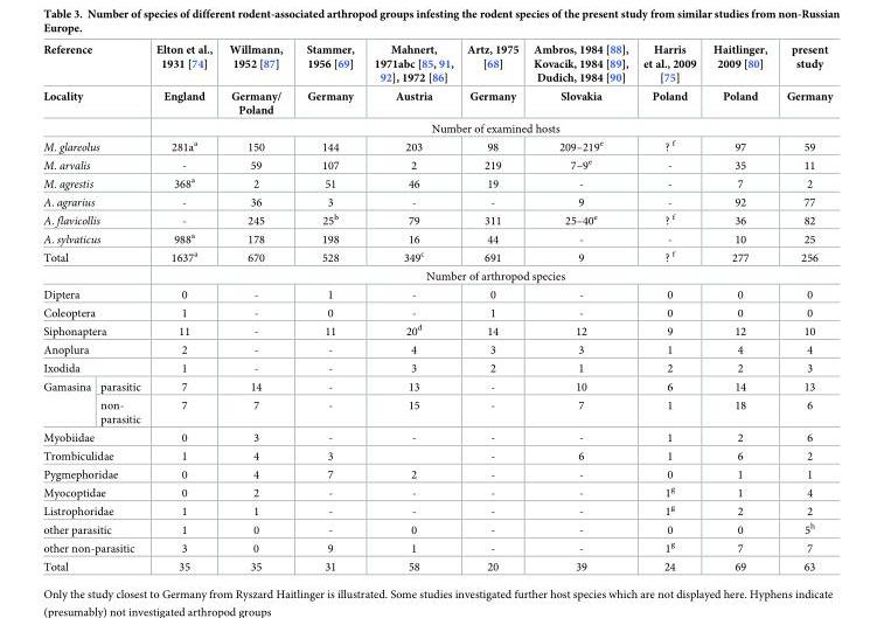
<table><thead><tr><td rowspan="2" colspan="2">Reference Locality</td><td rowspan="2">Elton et al., 1931 [74] England</td><td rowspan="2">Willmann, 1952 [87] Germany/ Poland</td><td rowspan="2">Stammer, 1956 [69] Germany</td><td rowspan="2">Mahnert, 1971abc [85, 91, 92], 1972 [86] Austria</td><td rowspan="2">Artz, 1975 [68] Germany</td><td rowspan="2">Ambros, 1984 [88], Kovacik, 1984 [89], Dudich, 1984 [90] Slovakia</td><td rowspan="2">Harris et al., 2009 [75] Poland</td><td rowspan="2">Haitlinger, 2009 [80] Poland</td><td rowspan="2">present study Germany</td></tr><tr></tr></thead><tbody><tr><td colspan="2"></td><td colspan="9">Number of examined hosts</td></tr><tr><td colspan="2">M. glareolus</td><td>281a<sup>a</sup></td><td>150</td><td>144</td><td>203</td><td>98</td><td>209–219<sup>e</sup></td><td>? <sup>f</sup></td><td>97</td><td>59</td></tr><tr><td colspan="2">M. arvalis</td><td>-</td><td>59</td><td>107</td><td>2</td><td>219</td><td>7–9<sup>e</sup></td><td>-</td><td>35</td><td>11</td></tr><tr><td colspan="2">M. agrestis</td><td>368<sup>a</sup></td><td>2</td><td>51</td><td>46</td><td>19</td><td>-</td><td>-</td><td>7</td><td>2</td></tr><tr><td colspan="2">A. agrarius</td><td>-</td><td>36</td><td>3</td><td>-</td><td>-</td><td>9</td><td>-</td><td>92</td><td>77</td></tr><tr><td colspan="2">A. flavicollis</td><td>-</td><td>245</td><td>25<sup>b</sup></td><td>79</td><td>311</td><td>25–40<sup>e</sup></td><td>? <sup>f</sup></td><td>36</td><td>82</td></tr><tr><td colspan="2">A. sylvaticus</td><td>988<sup>a</sup></td><td>178</td><td>198</td><td>16</td><td>44</td><td>-</td><td>-</td><td>10</td><td>25</td></tr><tr><td rowspan="2" colspan="2">Total</td><td>1637<sup>a</sup></td><td>670</td><td>528</td><td>349<sup>c</sup></td><td>691</td><td>9</td><td>? <sup>f</sup></td><td>277</td><td>256</td></tr><tr><td colspan="9">Number of arthropod species</td></tr><tr><td colspan="2">Diptera</td><td>0</td><td>-</td><td>1</td><td>-</td><td>0</td><td>-</td><td>0</td><td>0</td><td>0</td></tr><tr><td colspan="2">Coleoptera</td><td>1</td><td>-</td><td>0</td><td>-</td><td>1</td><td>-</td><td>0</td><td>0</td><td>0</td></tr><tr><td colspan="2">Siphonaptera</td><td>11</td><td>-</td><td>11</td><td>20<sup>d</sup></td><td>14</td><td>12</td><td>9</td><td>12</td><td>10</td></tr><tr><td colspan="2">Anoplura</td><td>2</td><td>-</td><td>-</td><td>4</td><td>3</td><td>3</td><td>1</td><td>4</td><td>4</td></tr><tr><td colspan="2">Ixodida</td><td>1</td><td>-</td><td>-</td><td>3</td><td>2</td><td>1</td><td>2</td><td>2</td><td>3</td></tr><tr><td rowspan="2">Gamasina</td><td>parasitic</td><td>7</td><td>14</td><td>-</td><td>13</td><td>-</td><td>10</td><td>6</td><td>14</td><td>13</td></tr><tr><td>non- parasitic</td><td>7</td><td>7</td><td>-</td><td>15</td><td>-</td><td>7</td><td>1</td><td>18</td><td>6</td></tr><tr><td colspan="2">Myobiidae</td><td>0</td><td>3</td><td>-</td><td>-</td><td>-</td><td>-</td><td>1</td><td>2</td><td>6</td></tr><tr><td colspan="2">Trombiculidae</td><td>1</td><td>4</td><td>3</td><td></td><td>-</td><td>6</td><td>1</td><td>6</td><td>2</td></tr><tr><td colspan="2">Pygmephoridae</td><td>0</td><td>4</td><td>7</td><td>2</td><td>-</td><td>-</td><td>0</td><td>1</td><td>1</td></tr><tr><td colspan="2">Myocoptidae</td><td>0</td><td>2</td><td>-</td><td>-</td><td>-</td><td>-</td><td>1<sup>g</sup></td><td>1</td><td>4</td></tr><tr><td colspan="2">Listrophoridae</td><td>1</td><td>1</td><td>-</td><td>-</td><td>-</td><td>-</td><td>1<sup>g</sup></td><td>2</td><td>2</td></tr><tr><td colspan="2">other parasitic</td><td>1</td><td>0</td><td>-</td><td>0</td><td>-</td><td>-</td><td>0</td><td>0</td><td>5<sup>h</sup></td></tr><tr><td colspan="2">other non-parasitic</td><td>3</td><td>0</td><td>9</td><td>1</td><td>-</td><td>-</td><td>1<sup>g</sup></td><td>7</td><td>7</td></tr><tr><td colspan="2">Total</td><td>35</td><td>35</td><td>31</td><td>58</td><td>20</td><td>39</td><td>24</td><td>69</td><td>63</td></tr></tbody></table>